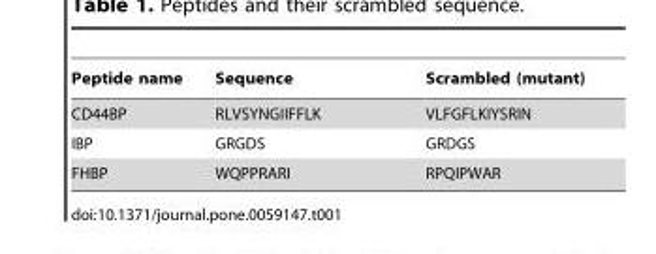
<table><thead><tr><td>Peptide name</td><td>Sequence</td><td>Scrambled (mutant)</td></tr></thead><tbody><tr><td>CD44BP</td><td>RLVSYNGIIFFLK</td><td>VLFGFLKIYSRIN</td></tr><tr><td>IBP</td><td>GRGDS</td><td>GRDGS</td></tr><tr><td>FHBP</td><td>WQPPRARI</td><td>RPQIPWAR</td></tr></tbody></table>